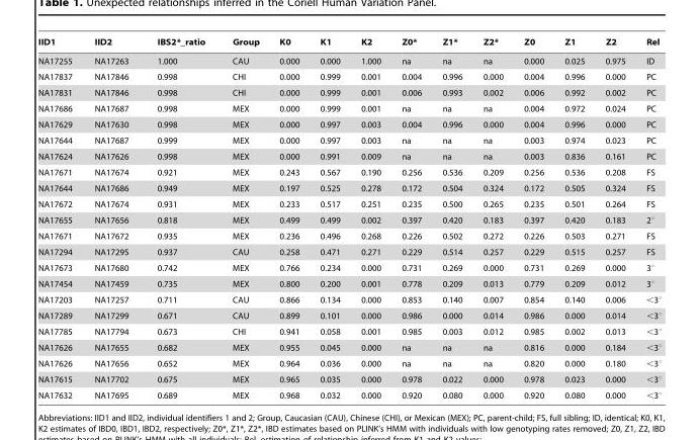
<table><thead><tr><td>IID1</td><td>IID2</td><td>IBS2*_ratio</td><td>Group</td><td>K0</td><td>K1</td><td>K2</td><td>Z0*</td><td>Z1*</td><td>Z2*</td><td>Z0</td><td>Z1</td><td>Z2</td><td>Rel</td></tr></thead><tbody><tr><td>NA17255</td><td>NA17263</td><td>1.000</td><td>CAU</td><td>0.000</td><td>0.000</td><td>1.000</td><td>na</td><td>na</td><td>na</td><td>0.000</td><td>0.025</td><td>0.975</td><td>ID</td></tr><tr><td>NA17837</td><td>NA17846</td><td>0.998</td><td>CHI</td><td>0.000</td><td>0.999</td><td>0.001</td><td>0.004</td><td>0.996</td><td>0.000</td><td>0.004</td><td>0.996</td><td>0.000</td><td>PC</td></tr><tr><td>NA17831</td><td>NA17846</td><td>0.998</td><td>CHI</td><td>0.000</td><td>0.999</td><td>0.001</td><td>0.006</td><td>0.993</td><td>0.002</td><td>0.006</td><td>0.992</td><td>0.002</td><td>PC</td></tr><tr><td>NA17686</td><td>NA17687</td><td>0.998</td><td>MEX</td><td>0.000</td><td>0.999</td><td>0.001</td><td>na</td><td>na</td><td>na</td><td>0.004</td><td>0.972</td><td>0.024</td><td>PC</td></tr><tr><td>NA17629</td><td>NA17630</td><td>0.998</td><td>MEX</td><td>0.000</td><td>0.997</td><td>0.003</td><td>0.004</td><td>0.996</td><td>0.000</td><td>0.004</td><td>0.996</td><td>0.000</td><td>PC</td></tr><tr><td>NA17644</td><td>NA17687</td><td>0.999</td><td>MEX</td><td>0.000</td><td>0.997</td><td>0.003</td><td>na</td><td>na</td><td>na</td><td>0.003</td><td>0.974</td><td>0.023</td><td>PC</td></tr><tr><td>NA17624</td><td>NA17626</td><td>0.998</td><td>MEX</td><td>0.000</td><td>0.991</td><td>0.009</td><td>na</td><td>na</td><td>na</td><td>0.003</td><td>0.836</td><td>0.161</td><td>PC</td></tr><tr><td>NA17671</td><td>NA17674</td><td>0.921</td><td>MEX</td><td>0.243</td><td>0.567</td><td>0.190</td><td>0.256</td><td>0.536</td><td>0.209</td><td>0.256</td><td>0.536</td><td>0.208</td><td>FS</td></tr><tr><td>NA17644</td><td>NA17686</td><td>0.949</td><td>MEX</td><td>0.197</td><td>0.525</td><td>0.278</td><td>0.172</td><td>0.504</td><td>0.324</td><td>0.172</td><td>0.505</td><td>0.324</td><td>FS</td></tr><tr><td>NA17672</td><td>NA17674</td><td>0.931</td><td>MEX</td><td>0.233</td><td>0.517</td><td>0.251</td><td>0.235</td><td>0.500</td><td>0.265</td><td>0.235</td><td>0.501</td><td>0.264</td><td>FS</td></tr><tr><td>NA17655</td><td>NA17656</td><td>0.818</td><td>MEX</td><td>0.499</td><td>0.499</td><td>0.002</td><td>0.397</td><td>0.420</td><td>0.183</td><td>0.397</td><td>0.420</td><td>0.183</td><td>2°</td></tr><tr><td>NA17671</td><td>NA17672</td><td>0.935</td><td>MEX</td><td>0.236</td><td>0.496</td><td>0.268</td><td>0.226</td><td>0.502</td><td>0.272</td><td>0.226</td><td>0.503</td><td>0.271</td><td>FS</td></tr><tr><td>NA17294</td><td>NA17295</td><td>0.937</td><td>CAU</td><td>0.258</td><td>0.471</td><td>0.271</td><td>0.229</td><td>0.514</td><td>0.257</td><td>0.229</td><td>0.515</td><td>0.257</td><td>FS</td></tr><tr><td>NA17673</td><td>NA17680</td><td>0.742</td><td>MEX</td><td>0.766</td><td>0.234</td><td>0.000</td><td>0.731</td><td>0.269</td><td>0.000</td><td>0.731</td><td>0.269</td><td>0.000</td><td>3°</td></tr><tr><td>NA17454</td><td>NA17459</td><td>0.735</td><td>MEX</td><td>0.800</td><td>0.200</td><td>0.001</td><td>0.778</td><td>0.209</td><td>0.013</td><td>0.779</td><td>0.209</td><td>0.012</td><td>3°</td></tr><tr><td>NA17203</td><td>NA17257</td><td>0.711</td><td>CAU</td><td>0.866</td><td>0.134</td><td>0.000</td><td>0.853</td><td>0.140</td><td>0.007</td><td>0.854</td><td>0.140</td><td>0.006</td><td>&lt;3°</td></tr><tr><td>NA17289</td><td>NA17299</td><td>0.671</td><td>CAU</td><td>0.899</td><td>0.101</td><td>0.000</td><td>0.986</td><td>0.000</td><td>0.014</td><td>0.986</td><td>0.000</td><td>0.014</td><td>&lt;3°</td></tr><tr><td>NA17785</td><td>NA17794</td><td>0.673</td><td>CHI</td><td>0.941</td><td>0.058</td><td>0.001</td><td>0.985</td><td>0.003</td><td>0.012</td><td>0.985</td><td>0.002</td><td>0.013</td><td>&lt;3°</td></tr><tr><td>NA17626</td><td>NA17655</td><td>0.682</td><td>MEX</td><td>0.955</td><td>0.045</td><td>0.000</td><td>na</td><td>na</td><td>na</td><td>0.816</td><td>0.000</td><td>0.184</td><td>&lt;3°</td></tr><tr><td>NA17626</td><td>NA17656</td><td>0.652</td><td>MEX</td><td>0.964</td><td>0.036</td><td>0.000</td><td>na</td><td>na</td><td>na</td><td>0.820</td><td>0.000</td><td>0.180</td><td>&lt;3°</td></tr><tr><td>NA17615</td><td>NA17702</td><td>0.675</td><td>MEX</td><td>0.965</td><td>0.035</td><td>0.000</td><td>0.978</td><td>0.022</td><td>0.000</td><td>0.978</td><td>0.023</td><td>0.000</td><td>&lt;3°</td></tr><tr><td>NA17632</td><td>NA17695</td><td>0.689</td><td>MEX</td><td>0.968</td><td>0.032</td><td>0.000</td><td>0.920</td><td>0.080</td><td>0.000</td><td>0.920</td><td>0.080</td><td>0.000</td><td>&lt;3°</td></tr></tbody></table>